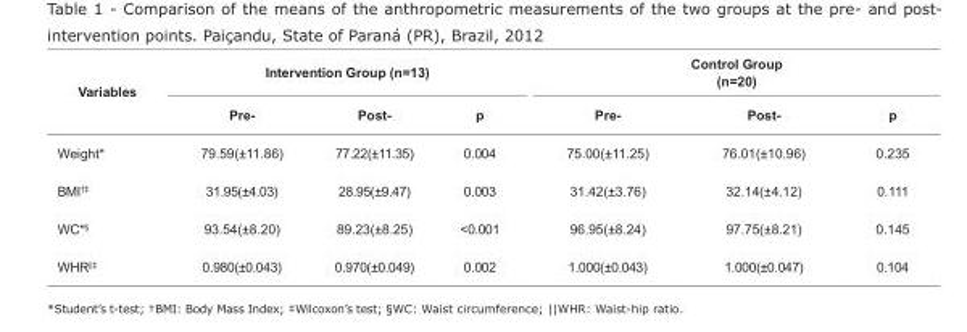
<table><tbody><tr><td rowspan="2">Variables</td><td colspan="3">Intervention Group (n=13)</td><td colspan="3">Control Group (n=20)</td></tr><tr><td>Pre-</td><td>Post-</td><td>p</td><td>Pre-</td><td>Post-</td><td>p</td></tr><tr><td>Weight*</td><td>79.59(±11.86)</td><td>77.22(±11.35)</td><td>0.004</td><td>75.00(±11.25)</td><td>76.01(±10.96)</td><td>0.235</td></tr><tr><td>BMI<sup>†‡</sup></td><td>31.95(±4.03)</td><td>28.95(±9.47)</td><td>0.003</td><td>31.42(±3.76)</td><td>32.14(±4.12)</td><td>0.111</td></tr><tr><td>WC*<sup>§</sup></td><td>93.54(±8.20)</td><td>89.23(±8.25)</td><td>&lt;0.001</td><td>96.95(±8.24)</td><td>97.75(±8.21)</td><td>0.145</td></tr><tr><td>WHR<sup>||‡</sup></td><td>0.980(±0.043)</td><td>0.970(±0.049)</td><td>0.002</td><td>1.000(±0.043)</td><td>1.000(±0.047)</td><td>0.104</td></tr></tbody></table>